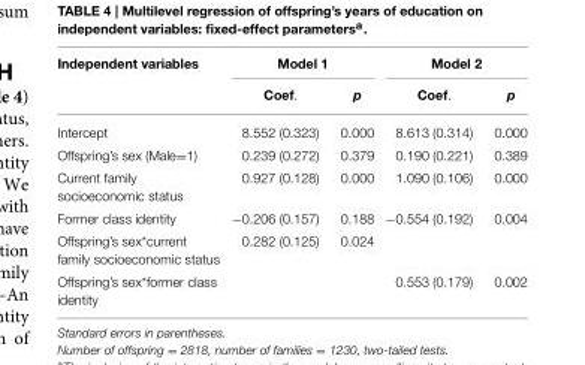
<table><thead><tr><td rowspan="2">Independent variables</td><td colspan="2">Model 1</td><td colspan="2">Model 2</td></tr><tr><td>Coef.</td><td>p</td><td>Coef.</td><td>p</td></tr></thead><tbody><tr><td>Intercept</td><td>8.552 (0.323)</td><td>0.000</td><td>8.613 (0.314)</td><td>0.000</td></tr><tr><td>Offspring’s sex (Male=1)</td><td>0.239 (0.272)</td><td>0.379</td><td>0.190 (0.221)</td><td>0.389</td></tr><tr><td>Current family socioeconomic status</td><td>0.927 (0.128)</td><td>0.000</td><td>1.090 (0.106)</td><td>0.000</td></tr><tr><td>Former class identity</td><td>−0.206 (0.157)</td><td>0.188</td><td>−0.554 (0.192)</td><td>0.004</td></tr><tr><td>Offspring’s sex*current family socioeconomic status</td><td>0.282 (0.125)</td><td>0.024</td><td></td><td></td></tr><tr><td>Offspring’s sex*former class identity</td><td></td><td></td><td>0.553 (0.179)</td><td>0.002</td></tr></tbody></table>